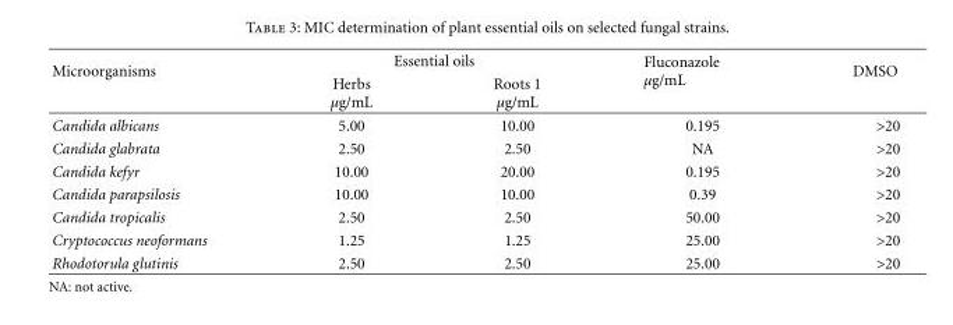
<table><thead><tr><td rowspan="2">Microorganisms</td><td colspan="2">Essential oils</td><td rowspan="2">Fluconazole μg/mL</td><td rowspan="2">DMSO</td></tr><tr><td>Herbs μg/mL</td><td>Roots 1 μg/mL</td></tr></thead><tbody><tr><td>Candida albicans</td><td>5.00</td><td>10.00</td><td>0.195</td><td>&gt;20</td></tr><tr><td>Candida glabrata</td><td>2.50</td><td>2.50</td><td>NA</td><td>&gt;20</td></tr><tr><td>Candida kefyr</td><td>10.00</td><td>20.00</td><td>0.195</td><td>&gt;20</td></tr><tr><td>Candida parapsilosis</td><td>10.00</td><td>10.00</td><td>0.39</td><td>&gt;20</td></tr><tr><td>Candida tropicalis</td><td>2.50</td><td>2.50</td><td>50.00</td><td>&gt;20</td></tr><tr><td>Cryptococcus neoformans</td><td>1.25</td><td>1.25</td><td>25.00</td><td>&gt;20</td></tr><tr><td>Rhodotorula glutinis</td><td>2.50</td><td>2.50</td><td>25.00</td><td>&gt;20</td></tr></tbody></table>